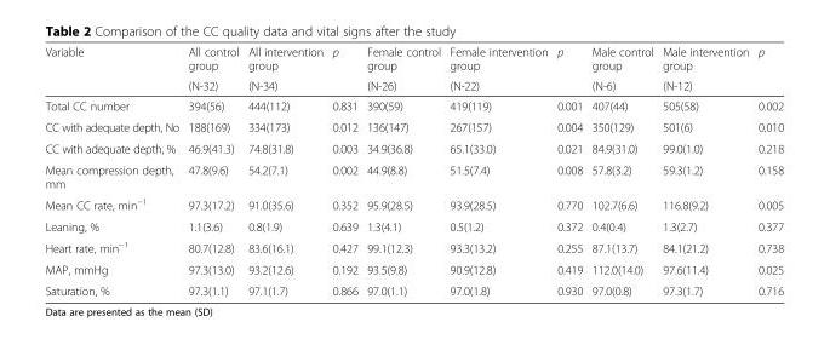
<table><thead><tr><td rowspan="2">Variable</td><td rowspan="2">All control group (N-32)</td><td rowspan="2">All intervention group (N-34)</td><td rowspan="2">p</td><td rowspan="2">Female control group (N-26)</td><td rowspan="2">Female intervention group (N-22)</td><td rowspan="2">p</td><td rowspan="2">Male control group (N-6)</td><td rowspan="2">Male intervention group (N-12)</td><td rowspan="2">p</td></tr><tr></tr></thead><tbody><tr><td>Total CC number</td><td>394(56)</td><td>444(112)</td><td>0.831</td><td>390(59)</td><td>419(119)</td><td>0.001</td><td>407(44)</td><td>505(58)</td><td>0.002</td></tr><tr><td>CC with adequate depth, No</td><td>188(169)</td><td>334(173)</td><td>0.012</td><td>136(147)</td><td>267(157)</td><td>0.004</td><td>350(129)</td><td>501(6)</td><td>0.010</td></tr><tr><td>CC with adequate depth, %</td><td>46.9(41.3)</td><td>74.8(31.8)</td><td>0.003</td><td>34.9(36.8)</td><td>65.1(33.0)</td><td>0.021</td><td>84.9(31.0)</td><td>99.0(1.0)</td><td>0.218</td></tr><tr><td>Mean compression depth, mm</td><td>47.8(9.6)</td><td>54.2(7.1)</td><td>0.002</td><td>44.9(8.8)</td><td>51.5(7.4)</td><td>0.008</td><td>57.8(3.2)</td><td>59.3(1.2)</td><td>0.158</td></tr><tr><td>Mean CC rate, min<sup>−1</sup></td><td>97.3(17.2)</td><td>91.0(35.6)</td><td>0.352</td><td>95.9(28.5)</td><td>93.9(28.5)</td><td>0.770</td><td>102.7(6.6)</td><td>116.8(9.2)</td><td>0.005</td></tr><tr><td>Leaning, %</td><td>1.1(3.6)</td><td>0.8(1.9)</td><td>0.639</td><td>1.3(4.1)</td><td>0.5(1.2)</td><td>0.372</td><td>0.4(0.4)</td><td>1.3(2.7)</td><td>0.377</td></tr><tr><td>Heart rate, min<sup>−1</sup></td><td>80.7(12.8)</td><td>83.6(16.1)</td><td>0.427</td><td>99.1(12.3)</td><td>93.3(13.2)</td><td>0.255</td><td>87.1(13.7)</td><td>84.1(21.2)</td><td>0.738</td></tr><tr><td>MAP, mmHg</td><td>97.3(13.0)</td><td>93.2(12.6)</td><td>0.192</td><td>93.5(9.8)</td><td>90.9(12.8)</td><td>0.419</td><td>112.0(14.0)</td><td>97.6(11.4)</td><td>0.025</td></tr><tr><td>Saturation, %</td><td>97.3(1.1)</td><td>97.1(1.7)</td><td>0.866</td><td>97.0(1.1)</td><td>97.0(1.8)</td><td>0.930</td><td>97.0(0.8)</td><td>97.3(1.7)</td><td>0.716</td></tr></tbody></table>